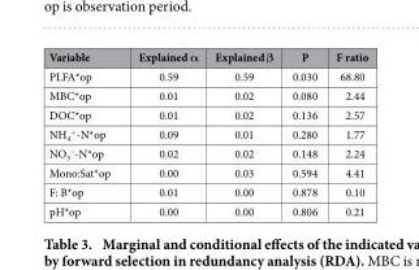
<table><thead><tr><td>Variable</td><td>Explained α</td><td>Explained β</td><td>P</td><td>F ratio</td></tr></thead><tbody><tr><td>PLFA*op</td><td>0.59</td><td>0.59</td><td>0.030</td><td>68.80</td></tr><tr><td>MBC*op</td><td>0.01</td><td>0.02</td><td>0.080</td><td>2.44</td></tr><tr><td>DOC*op</td><td>0.01</td><td>0.02</td><td>0.136</td><td>2.57</td></tr><tr><td>NH<sub>4</sub> <sup>+</sup>-N*op</td><td>0.09</td><td>0.01</td><td>0.280</td><td>1.77</td></tr><tr><td>NO<sub>3</sub> <sup>−</sup>-N*op</td><td>0.02</td><td>0.02</td><td>0.148</td><td>2.24</td></tr><tr><td>Mono:Sat*op</td><td>0.00</td><td>0.03</td><td>0.594</td><td>4.41</td></tr><tr><td>F: B*op</td><td>0.01</td><td>0.00</td><td>0.878</td><td>0.10</td></tr><tr><td>pH*op</td><td>0.00</td><td>0.00</td><td>0.806</td><td>0.21</td></tr></tbody></table>